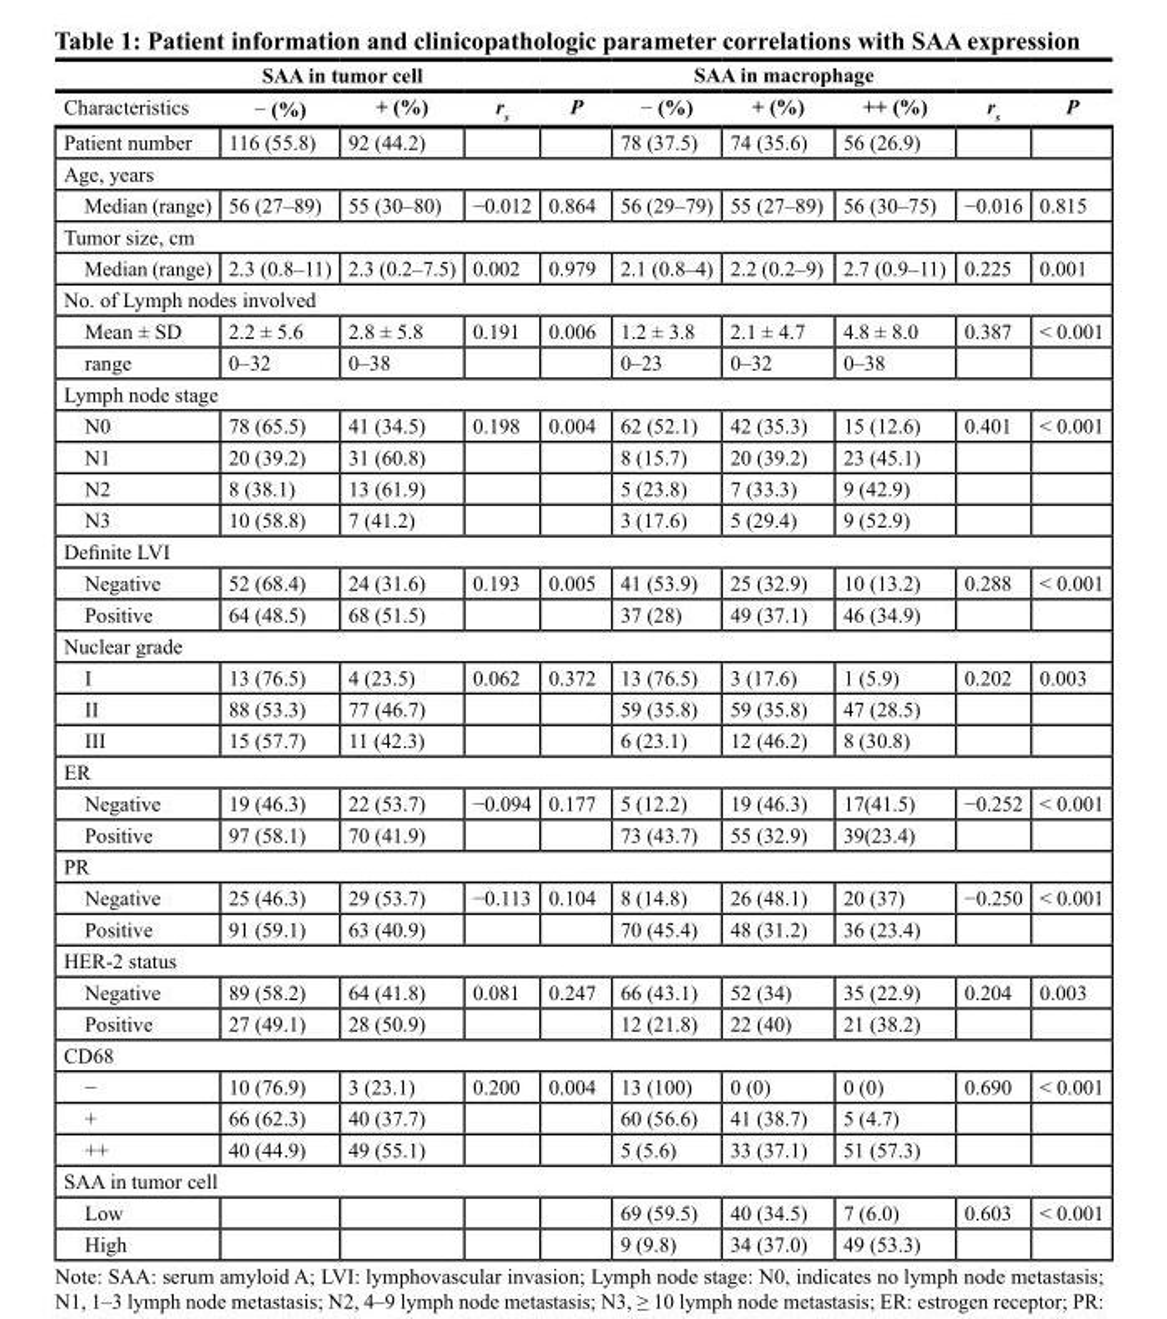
<table><thead><tr><td rowspan="2">Characteristics</td><td colspan="2">SAA in tumor cell</td><td rowspan="2">r<sub>s</sub></td><td rowspan="2">P</td><td colspan="3">SAA in macrophage</td><td rowspan="2">r<sub>s</sub></td><td rowspan="2">P</td></tr><tr><td>− (%)</td><td>+ (%)</td><td>− (%)</td><td>+ (%)</td><td>++ (%)</td></tr></thead><tbody><tr><td>Patient number</td><td>116 (55.8)</td><td>92 (44.2)</td><td></td><td></td><td>78 (37.5)</td><td>74 (35.6)</td><td>56 (26.9)</td><td></td><td></td></tr><tr><td colspan="10">Age, years</td></tr><tr><td>Median (range)</td><td>56 (27–89)</td><td>55 (30–80)</td><td>−0.012</td><td>0.864</td><td>56 (29–79)</td><td>55 (27–89)</td><td>56 (30–75)</td><td>−0.016</td><td>0.815</td></tr><tr><td colspan="10">Tumor size, cm</td></tr><tr><td>Median (range)</td><td>2.3 (0.8–11)</td><td>2.3 (0.2–7.5)</td><td>0.002</td><td>0.979</td><td>2.1 (0.8–4)</td><td>2.2 (0.2–9)</td><td>2.7 (0.9–11)</td><td>0.225</td><td>0.001</td></tr><tr><td colspan="10">No. of Lymph nodes involved</td></tr><tr><td>Mean ± SD</td><td>2.2 ± 5.6</td><td>2.8 ± 5.8</td><td>0.191</td><td>0.006</td><td>1.2 ± 3.8</td><td>2.1 ± 4.7</td><td>4.8 ± 8.0</td><td>0.387</td><td>&lt; 0.001</td></tr><tr><td>range</td><td>0–32</td><td>0–38</td><td></td><td></td><td>0–23</td><td>0–32</td><td>0–38</td><td></td><td></td></tr><tr><td colspan="10">Lymph node stage</td></tr><tr><td>N0</td><td>78 (65.5)</td><td>41 (34.5)</td><td>0.198</td><td>0.004</td><td>62 (52.1)</td><td>42 (35.3)</td><td>15 (12.6)</td><td>0.401</td><td>&lt; 0.001</td></tr><tr><td>N1</td><td>20 (39.2)</td><td>31 (60.8)</td><td></td><td></td><td>8 (15.7)</td><td>20 (39.2)</td><td>23 (45.1)</td><td></td><td></td></tr><tr><td>N2</td><td>8 (38.1)</td><td>13 (61.9)</td><td></td><td></td><td>5 (23.8)</td><td>7 (33.3)</td><td>9 (42.9)</td><td></td><td></td></tr><tr><td>N3</td><td>10 (58.8)</td><td>7 (41.2)</td><td></td><td></td><td>3 (17.6)</td><td>5 (29.4)</td><td>9 (52.9)</td><td></td><td></td></tr><tr><td colspan="10">Definite LVI</td></tr><tr><td>Negative</td><td>52 (68.4)</td><td>24 (31.6)</td><td>0.193</td><td>0.005</td><td>41 (53.9)</td><td>25 (32.9)</td><td>10 (13.2)</td><td>0.288</td><td>&lt; 0.001</td></tr><tr><td>Positive</td><td>64 (48.5)</td><td>68 (51.5)</td><td></td><td></td><td>37 (28)</td><td>49 (37.1)</td><td>46 (34.9)</td><td></td><td></td></tr><tr><td colspan="10">Nuclear grade</td></tr><tr><td>I</td><td>13 (76.5)</td><td>4 (23.5)</td><td>0.062</td><td>0.372</td><td>13 (76.5)</td><td>3 (17.6)</td><td>1 (5.9)</td><td>0.202</td><td>0.003</td></tr><tr><td>II</td><td>88 (53.3)</td><td>77 (46.7)</td><td></td><td></td><td>59 (35.8)</td><td>59 (35.8)</td><td>47 (28.5)</td><td></td><td></td></tr><tr><td>III</td><td>15 (57.7)</td><td>11 (42.3)</td><td></td><td></td><td>6 (23.1)</td><td>12 (46.2)</td><td>8 (30.8)</td><td></td><td></td></tr><tr><td colspan="10">ER</td></tr><tr><td>Negative</td><td>19 (46.3)</td><td>22 (53.7)</td><td>−0.094</td><td>0.177</td><td>5 (12.2)</td><td>19 (46.3)</td><td>17(41.5)</td><td>−0.252</td><td>&lt; 0.001</td></tr><tr><td>Positive</td><td>97 (58.1)</td><td>70 (41.9)</td><td></td><td></td><td>73 (43.7)</td><td>55 (32.9)</td><td>39(23.4)</td><td></td><td></td></tr><tr><td colspan="10">PR</td></tr><tr><td>Negative</td><td>25 (46.3)</td><td>29 (53.7)</td><td>−0.113</td><td>0.104</td><td>8 (14.8)</td><td>26 (48.1)</td><td>20 (37)</td><td>−0.250</td><td>&lt; 0.001</td></tr><tr><td>Positive</td><td>91 (59.1)</td><td>63 (40.9)</td><td></td><td></td><td>70 (45.4)</td><td>48 (31.2)</td><td>36 (23.4)</td><td></td><td></td></tr><tr><td colspan="10">HER-2 status</td></tr><tr><td>Negative</td><td>89 (58.2)</td><td>64 (41.8)</td><td>0.081</td><td>0.247</td><td>66 (43.1)</td><td>52 (34)</td><td>35 (22.9)</td><td>0.204</td><td>0.003</td></tr><tr><td>Positive</td><td>27 (49.1)</td><td>28 (50.9)</td><td></td><td></td><td>12 (21.8)</td><td>22 (40)</td><td>21 (38.2)</td><td></td><td></td></tr><tr><td colspan="10">CD68</td></tr><tr><td>−</td><td>10 (76.9)</td><td>3 (23.1)</td><td>0.200</td><td>0.004</td><td>13 (100)</td><td>0 (0)</td><td>0 (0)</td><td>0.690</td><td>&lt; 0.001</td></tr><tr><td>+</td><td>66 (62.3)</td><td>40 (37.7)</td><td></td><td></td><td>60 (56.6)</td><td>41 (38.7)</td><td>5 (4.7)</td><td></td><td></td></tr><tr><td>++</td><td>40 (44.9)</td><td>49 (55.1)</td><td></td><td></td><td>5 (5.6)</td><td>33 (37.1)</td><td>51 (57.3)</td><td></td><td></td></tr><tr><td colspan="10">SAA in tumor cell</td></tr><tr><td>Low</td><td></td><td></td><td></td><td></td><td>69 (59.5)</td><td>40 (34.5)</td><td>7 (6.0)</td><td>0.603</td><td>&lt; 0.001</td></tr><tr><td>High</td><td></td><td></td><td></td><td></td><td>9 (9.8)</td><td>34 (37.0)</td><td>49 (53.3)</td><td></td><td></td></tr></tbody></table>